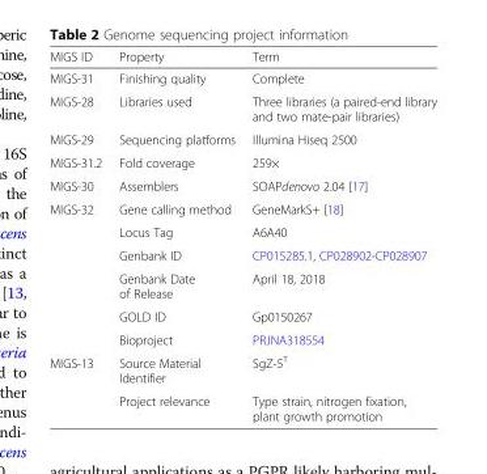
<table><thead><tr><td>MIGS ID</td><td>Property</td><td>Term</td></tr></thead><tbody><tr><td>MIGS-31</td><td>Finishing quality</td><td>Complete</td></tr><tr><td>MIGS-28</td><td>Libraries used</td><td>Three libraries (a paired-end library and two mate-pair libraries)</td></tr><tr><td>MIGS-29</td><td>Sequencing platforms</td><td>Illumina Hiseq 2500</td></tr><tr><td>MIGS-31.2</td><td>Fold coverage</td><td>259×</td></tr><tr><td>MIGS-30</td><td>Assemblers</td><td>SOAPdenovo 2.04 [17]</td></tr><tr><td rowspan="6">MIGS-32</td><td>Gene calling method</td><td>GeneMarkS+ [18]</td></tr><tr><td>Locus Tag</td><td>A6A40</td></tr><tr><td>Genbank ID</td><td>CP015285.1, CP028902-CP028907</td></tr><tr><td>Genbank Date of Release</td><td>April 18, 2018</td></tr><tr><td>GOLD ID</td><td>Gp0150267</td></tr><tr><td>Bioproject</td><td>PRJNA318554</td></tr><tr><td rowspan="2">MIGS-13</td><td>Source Material Identifier</td><td>SgZ-5<sup>T</sup></td></tr><tr><td>Project relevance</td><td>Type strain, nitrogen fixation, plant growth promotion</td></tr></tbody></table>